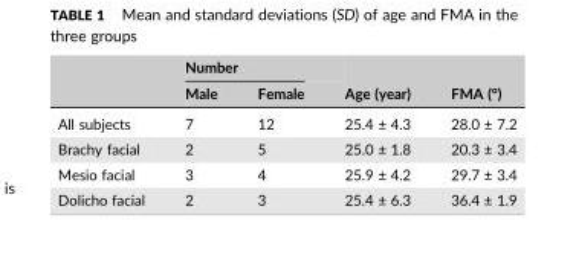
<table><thead><tr><td rowspan="2"></td><td colspan="2">Number</td><td rowspan="2">Age (year)</td><td rowspan="2">FMA (°)</td></tr><tr><td>Male</td><td>Female</td></tr></thead><tbody><tr><td>All subjects</td><td>7</td><td>12</td><td>25.4 ± 4.3</td><td>28.0 ± 7.2</td></tr><tr><td>Brachy facial</td><td>2</td><td>5</td><td>25.0 ± 1.8</td><td>20.3 ± 3.4</td></tr><tr><td>Mesio facial</td><td>3</td><td>4</td><td>25.9 ± 4.2</td><td>29.7 ± 3.4</td></tr><tr><td>Dolicho facial</td><td>2</td><td>3</td><td>25.4 ± 6.3</td><td>36.4 ± 1.9</td></tr></tbody></table>